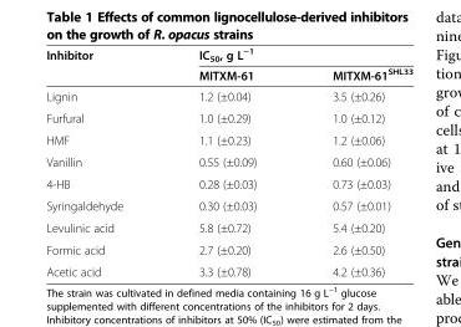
<table><thead><tr><td rowspan="2">Inhibitor</td><td colspan="2">IC<sub>50</sub>, g L<sup>−1</sup></td></tr><tr><td>MITXM-61</td><td>MITXM-61<sup>SHL33</sup></td></tr></thead><tbody><tr><td>Lignin</td><td>1.2 (±0.04)</td><td>3.5 (±0.26)</td></tr><tr><td>Furfural</td><td>1.0 (±0.29)</td><td>1.0 (±0.12)</td></tr><tr><td>HMF</td><td>1.1 (±0.23)</td><td>1.2 (±0.06)</td></tr><tr><td>Vanillin</td><td>0.55 (±0.09)</td><td>0.60 (±0.06)</td></tr><tr><td>4-HB</td><td>0.28 (±0.03)</td><td>0.73 (±0.03)</td></tr><tr><td>Syringaldehyde</td><td>0.30 (±0.03)</td><td>0.57 (±0.01)</td></tr><tr><td>Levulinic acid</td><td>5.8 (±0.72)</td><td>5.4 (±0.20)</td></tr><tr><td>Formic acid</td><td>2.7 (±0.20)</td><td>2.6 (±0.50)</td></tr><tr><td>Acetic acid</td><td>3.3 (±0.78)</td><td>4.2 (±0.36)</td></tr></tbody></table>